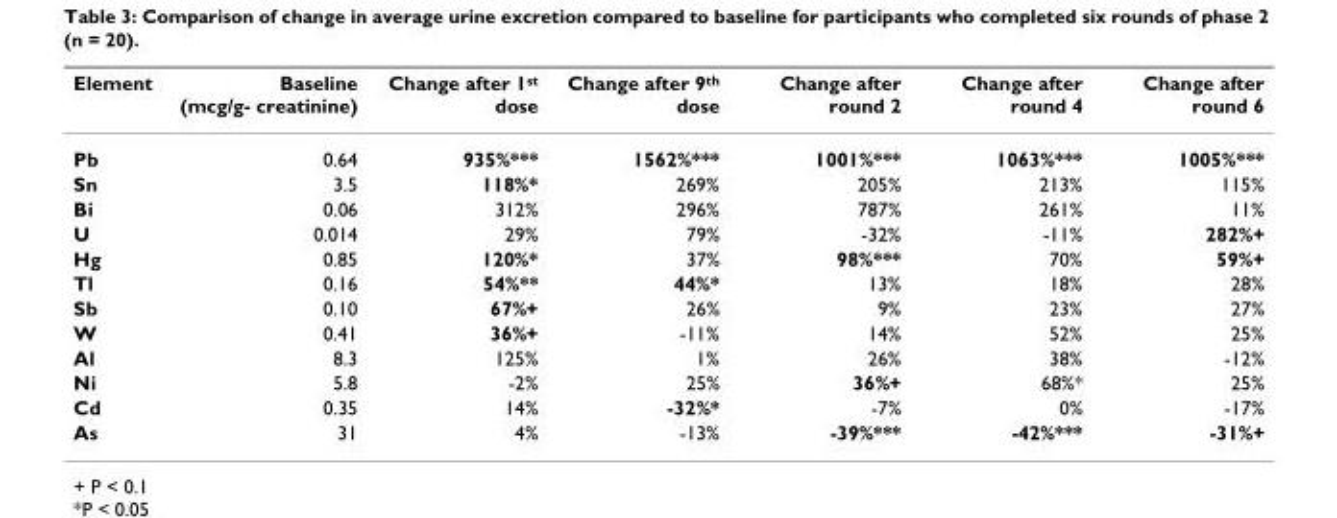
<table><thead><tr><td>Element</td><td>Baseline (mcg/g- creatinine)</td><td>Change after 1<sup>st</sup> dose</td><td>Change after 9<sup>th</sup> dose</td><td>Change after round 2</td><td>Change after round 4</td><td>Change after round 6</td></tr></thead><tbody><tr><td>Pb</td><td>0.64</td><td>935%***</td><td>1562%***</td><td>1001%***</td><td>1063%***</td><td>1005%***</td></tr><tr><td>Sn</td><td>3.5</td><td>118%*</td><td>269%</td><td>205%</td><td>213%</td><td>115%</td></tr><tr><td>Bi</td><td>0.06</td><td>312%</td><td>296%</td><td>787%</td><td>261%</td><td>11%</td></tr><tr><td>U</td><td>0.014</td><td>29%</td><td>79%</td><td>-32%</td><td>-11%</td><td>282%+</td></tr><tr><td>Hg</td><td>0.85</td><td>120%*</td><td>37%</td><td>98%***</td><td>70%</td><td>59%+</td></tr><tr><td>Tl</td><td>0.16</td><td>54%**</td><td>44%*</td><td>13%</td><td>18%</td><td>28%</td></tr><tr><td>Sb</td><td>0.10</td><td>67%+</td><td>26%</td><td>9%</td><td>23%</td><td>27%</td></tr><tr><td>W</td><td>0.41</td><td>36%+</td><td>-11%</td><td>14%</td><td>52%</td><td>25%</td></tr><tr><td>Al</td><td>8.3</td><td>125%</td><td>1%</td><td>26%</td><td>38%</td><td>-12%</td></tr><tr><td>Ni</td><td>5.8</td><td>-2%</td><td>25%</td><td>36%+</td><td>68%*</td><td>25%</td></tr><tr><td>Cd</td><td>0.35</td><td>14%</td><td>-32%*</td><td>-7%</td><td>0%</td><td>-17%</td></tr><tr><td>As</td><td>31</td><td>4%</td><td>-13%</td><td>-39%***</td><td>-42%***</td><td>-31%+</td></tr></tbody></table>